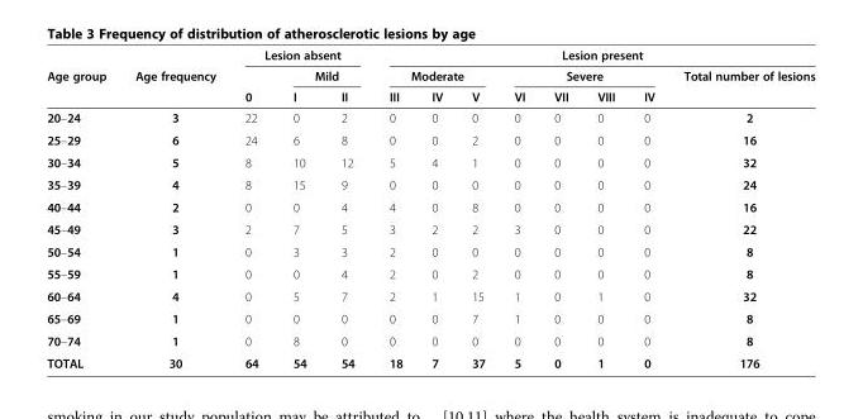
<table><thead><tr><td rowspan="3">Age group</td><td rowspan="3">Age frequency</td><td colspan="3">Lesion absent</td><td colspan="8">Lesion present</td></tr><tr><td rowspan="2">0</td><td colspan="2">Mild</td><td colspan="3">Moderate</td><td colspan="4">Severe</td><td rowspan="2">Total number of lesions</td></tr><tr><td>I</td><td>II</td><td>III</td><td>IV</td><td>V</td><td>VI</td><td>VII</td><td>VIII</td><td>IV</td></tr></thead><tbody><tr><td>20–24</td><td>3</td><td>22</td><td>0</td><td>2</td><td>0</td><td>0</td><td>0</td><td>0</td><td>0</td><td>0</td><td>0</td><td>2</td></tr><tr><td>25–29</td><td>6</td><td>24</td><td>6</td><td>8</td><td>0</td><td>0</td><td>2</td><td>0</td><td>0</td><td>0</td><td>0</td><td>16</td></tr><tr><td>30–34</td><td>5</td><td>8</td><td>10</td><td>12</td><td>5</td><td>4</td><td>1</td><td>0</td><td>0</td><td>0</td><td>0</td><td>32</td></tr><tr><td>35–39</td><td>4</td><td>8</td><td>15</td><td>9</td><td>0</td><td>0</td><td>0</td><td>0</td><td>0</td><td>0</td><td>0</td><td>24</td></tr><tr><td>40–44</td><td>2</td><td>0</td><td>0</td><td>4</td><td>4</td><td>0</td><td>8</td><td>0</td><td>0</td><td>0</td><td>0</td><td>16</td></tr><tr><td>45–49</td><td>3</td><td>2</td><td>7</td><td>5</td><td>3</td><td>2</td><td>2</td><td>3</td><td>0</td><td>0</td><td>0</td><td>22</td></tr><tr><td>50–54</td><td>1</td><td>0</td><td>3</td><td>3</td><td>2</td><td>0</td><td>0</td><td>0</td><td>0</td><td>0</td><td>0</td><td>8</td></tr><tr><td>55–59</td><td>1</td><td>0</td><td>0</td><td>4</td><td>2</td><td>0</td><td>2</td><td>0</td><td>0</td><td>0</td><td>0</td><td>8</td></tr><tr><td>60–64</td><td>4</td><td>0</td><td>5</td><td>7</td><td>2</td><td>1</td><td>15</td><td>1</td><td>0</td><td>1</td><td>0</td><td>32</td></tr><tr><td>65–69</td><td>1</td><td>0</td><td>0</td><td>0</td><td>0</td><td>0</td><td>7</td><td>1</td><td>0</td><td>0</td><td>0</td><td>8</td></tr><tr><td>70–74</td><td>1</td><td>0</td><td>8</td><td>0</td><td>0</td><td>0</td><td>0</td><td>0</td><td>0</td><td>0</td><td>0</td><td>8</td></tr><tr><td>TOTAL</td><td>30</td><td>64</td><td>54</td><td>54</td><td>18</td><td>7</td><td>37</td><td>5</td><td>0</td><td>1</td><td>0</td><td>176</td></tr></tbody></table>